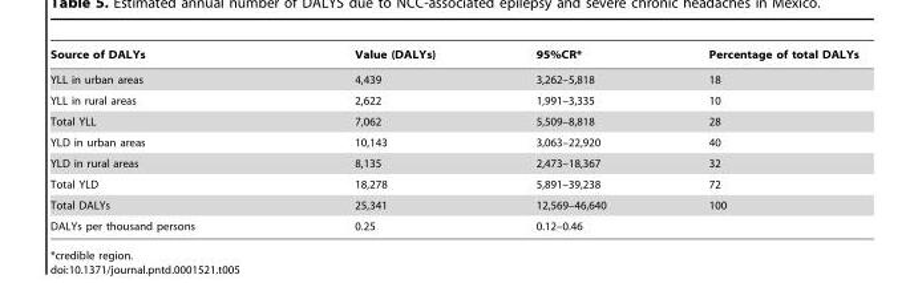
<table><thead><tr><td>Source of DALYs</td><td>Value (DALYs)</td><td>95%CR*</td><td>Percentage of total DALYs</td></tr></thead><tbody><tr><td>YLL in urban areas</td><td>4,439</td><td>3,262–5,818</td><td>18</td></tr><tr><td>YLL in rural areas</td><td>2,622</td><td>1,991–3,335</td><td>10</td></tr><tr><td>Total YLL</td><td>7,062</td><td>5,509–8,818</td><td>28</td></tr><tr><td>YLD in urban areas</td><td>10,143</td><td>3,063–22,920</td><td>40</td></tr><tr><td>YLD in rural areas</td><td>8,135</td><td>2,473–18,367</td><td>32</td></tr><tr><td>Total YLD</td><td>18,278</td><td>5,891–39,238</td><td>72</td></tr><tr><td>Total DALYs</td><td>25,341</td><td>12,569–46,640</td><td>100</td></tr><tr><td>DALYs per thousand persons</td><td>0.25</td><td>0.12–0.46</td><td></td></tr></tbody></table>